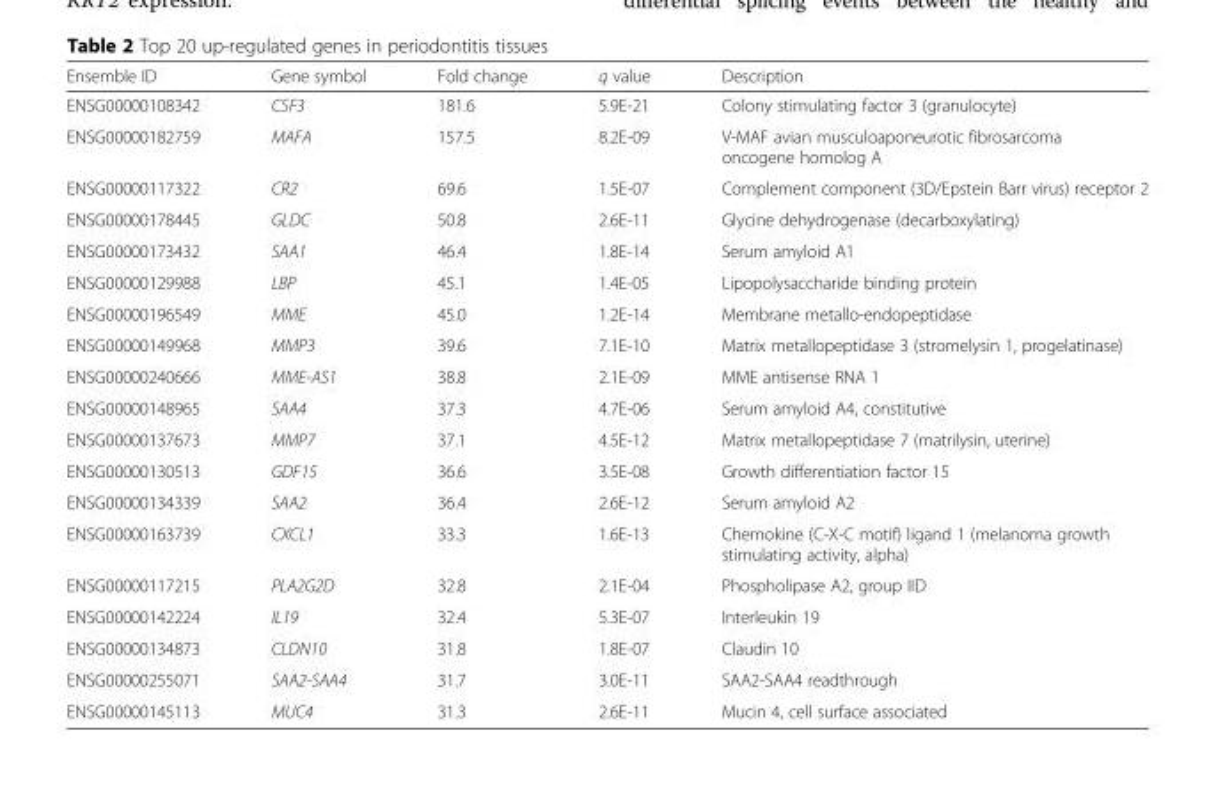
<table><thead><tr><td>Ensemble ID</td><td>Gene symbol</td><td>Fold change</td><td>q value</td><td>Description</td></tr></thead><tbody><tr><td>ENSG00000108342</td><td>CSF3</td><td>181.6</td><td>5.9E-21</td><td>Colony stimulating factor 3 (granulocyte)</td></tr><tr><td>ENSG00000182759</td><td>MAFA</td><td>157.5</td><td>8.2E-09</td><td>V-MAF avian musculoaponeurotic fibrosarcoma oncogene homolog A</td></tr><tr><td>ENSG00000117322</td><td>CR2</td><td>69.6</td><td>1.5E-07</td><td>Complement component (3D/Epstein Barr virus) receptor 2</td></tr><tr><td>ENSG00000178445</td><td>GLDC</td><td>50.8</td><td>2.6E-11</td><td>Glycine dehydrogenase (decarboxylating)</td></tr><tr><td>ENSG00000173432</td><td>SAA1</td><td>46.4</td><td>1.8E-14</td><td>Serum amyloid A1</td></tr><tr><td>ENSG00000129988</td><td>LBP</td><td>45.1</td><td>1.4E-05</td><td>Lipopolysaccharide binding protein</td></tr><tr><td>ENSG00000196549</td><td>MME</td><td>45.0</td><td>1.2E-14</td><td>Membrane metallo-endopeptidase</td></tr><tr><td>ENSG00000149968</td><td>MMP3</td><td>39.6</td><td>7.1E-10</td><td>Matrix metallopeptidase 3 (stromelysin 1, progelatinase)</td></tr><tr><td>ENSG00000240666</td><td>MME-AS1</td><td>38.8</td><td>2.1E-09</td><td>MME antisense RNA 1</td></tr><tr><td>ENSG00000148965</td><td>SAA4</td><td>37.3</td><td>4.7E-06</td><td>Serum amyloid A4, constitutive</td></tr><tr><td>ENSG00000137673</td><td>MMP7</td><td>37.1</td><td>4.5E-12</td><td>Matrix metallopeptidase 7 (matrilysin, uterine)</td></tr><tr><td>ENSG00000130513</td><td>GDF15</td><td>36.6</td><td>3.5E-08</td><td>Growth differentiation factor 15</td></tr><tr><td>ENSG00000134339</td><td>SAA2</td><td>36.4</td><td>2.6E-12</td><td>Serum amyloid A2</td></tr><tr><td>ENSG00000163739</td><td>CXCL1</td><td>33.3</td><td>1.6E-13</td><td>Chemokine (C-X-C motif) ligand 1 (melanoma growth stimulating activity, alpha)</td></tr><tr><td>ENSG00000117215</td><td>PLA2G2D</td><td>32.8</td><td>2.1E-04</td><td>Phospholipase A2, group IID</td></tr><tr><td>ENSG00000142224</td><td>IL19</td><td>32.4</td><td>5.3E-07</td><td>Interleukin 19</td></tr><tr><td>ENSG00000134873</td><td>CLDN10</td><td>31.8</td><td>1.8E-07</td><td>Claudin 10</td></tr><tr><td>ENSG00000255071</td><td>SAA2-SAA4</td><td>31.7</td><td>3.0E-11</td><td>SAA2-SAA4 readthrough</td></tr><tr><td>ENSG00000145113</td><td>MUC4</td><td>31.3</td><td>2.6E-11</td><td>Mucin 4, cell surface associated</td></tr></tbody></table>